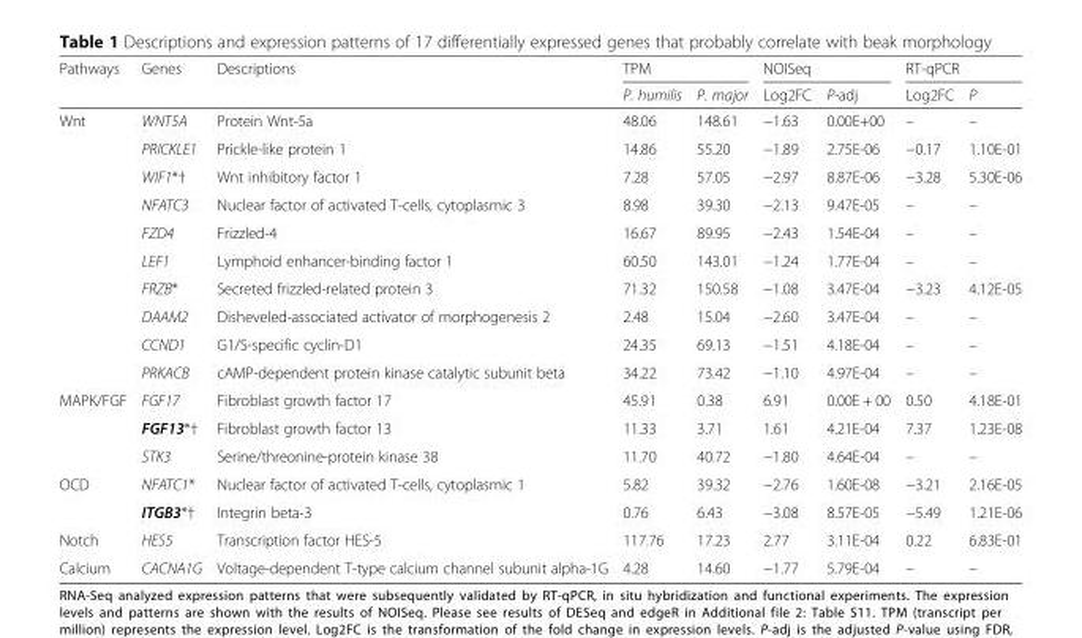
<table><thead><tr><td rowspan="2">Pathways</td><td rowspan="2">Genes</td><td rowspan="2">Descriptions</td><td colspan="2">TPM</td><td colspan="2">NOISeq</td><td colspan="2">RT-qPCR</td></tr><tr><td>P. humilis</td><td>P. major</td><td>Log2FC</td><td>P-adj</td><td>Log2FC</td><td>P</td></tr></thead><tbody><tr><td rowspan="10">Wnt</td><td>WNT5A</td><td>Protein Wnt-5a</td><td>48.06</td><td>148.61</td><td>−1.63</td><td>0.00E+00</td><td>–</td><td>–</td></tr><tr><td>PRICKLE1</td><td>Prickle-like protein 1</td><td>14.86</td><td>55.20</td><td>−1.89</td><td>2.75E-06</td><td>−0.17</td><td>1.10E-01</td></tr><tr><td>WIF1*†</td><td>Wnt inhibitory factor 1</td><td>7.28</td><td>57.05</td><td>−2.97</td><td>8.87E-06</td><td>−3.28</td><td>5.30E-06</td></tr><tr><td>NFATC3</td><td>Nuclear factor of activated T-cells, cytoplasmic 3</td><td>8.98</td><td>39.30</td><td>−2.13</td><td>9.47E-05</td><td>–</td><td>–</td></tr><tr><td>FZD4</td><td>Frizzled-4</td><td>16.67</td><td>89.95</td><td>−2.43</td><td>1.54E-04</td><td>–</td><td>–</td></tr><tr><td>LEF1</td><td>Lymphoid enhancer-binding factor 1</td><td>60.50</td><td>143.01</td><td>−1.24</td><td>1.77E-04</td><td>–</td><td>–</td></tr><tr><td>FRZB*</td><td>Secreted frizzled-related protein 3</td><td>71.32</td><td>150.58</td><td>−1.08</td><td>3.47E-04</td><td>−3.23</td><td>4.12E-05</td></tr><tr><td>DAAM2</td><td>Disheveled-associated activator of morphogenesis 2</td><td>2.48</td><td>15.04</td><td>−2.60</td><td>3.47E-04</td><td>–</td><td>–</td></tr><tr><td>CCND1</td><td>G1/S-specific cyclin-D1</td><td>24.35</td><td>69.13</td><td>−1.51</td><td>4.18E-04</td><td>–</td><td>–</td></tr><tr><td>PRKACB</td><td>cAMP-dependent protein kinase catalytic subunit beta</td><td>34.22</td><td>73.42</td><td>−1.10</td><td>4.97E-04</td><td>–</td><td>–</td></tr><tr><td rowspan="3">MAPK/FGF</td><td>FGF17</td><td>Fibroblast growth factor 17</td><td>45.91</td><td>0.38</td><td>6.91</td><td>0.00E + 00</td><td>0.50</td><td>4.18E-01</td></tr><tr><td>FGF13*†</td><td>Fibroblast growth factor 13</td><td>11.33</td><td>3.71</td><td>1.61</td><td>4.21E-04</td><td>7.37</td><td>1.23E-08</td></tr><tr><td>STK3</td><td>Serine/threonine-protein kinase 38</td><td>11.70</td><td>40.72</td><td>−1.80</td><td>4.64E-04</td><td>–</td><td>–</td></tr><tr><td rowspan="2">OCD</td><td>NFATC1*</td><td>Nuclear factor of activated T-cells, cytoplasmic 1</td><td>5.82</td><td>39.32</td><td>−2.76</td><td>1.60E-08</td><td>−3.21</td><td>2.16E-05</td></tr><tr><td>ITGB3*†</td><td>Integrin beta-3</td><td>0.76</td><td>6.43</td><td>−3.08</td><td>8.57E-05</td><td>−5.49</td><td>1.21E-06</td></tr><tr><td>Notch</td><td>HES5</td><td>Transcription factor HES-5</td><td>117.76</td><td>17.23</td><td>2.77</td><td>3.11E-04</td><td>0.22</td><td>6.83E-01</td></tr><tr><td>Calcium</td><td>CACNA1G</td><td>Voltage-dependent T-type calcium channel subunit alpha-1G</td><td>4.28</td><td>14.60</td><td>−1.77</td><td>5.79E-04</td><td>–</td><td>–</td></tr></tbody></table>